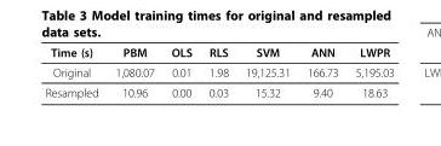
<table><thead><tr><td>Time (s)</td><td>PBM</td><td>OLS</td><td>RLS</td><td>SVM</td><td>ANN</td><td>LWPR</td></tr></thead><tbody><tr><td>Original</td><td>1,080.07</td><td>0.01</td><td>1.98</td><td>19,125.31</td><td>166.73</td><td>5,195.03</td></tr><tr><td>Resampled</td><td>10.96</td><td>0.00</td><td>0.03</td><td>15.32</td><td>9.40</td><td>18.63</td></tr></tbody></table>